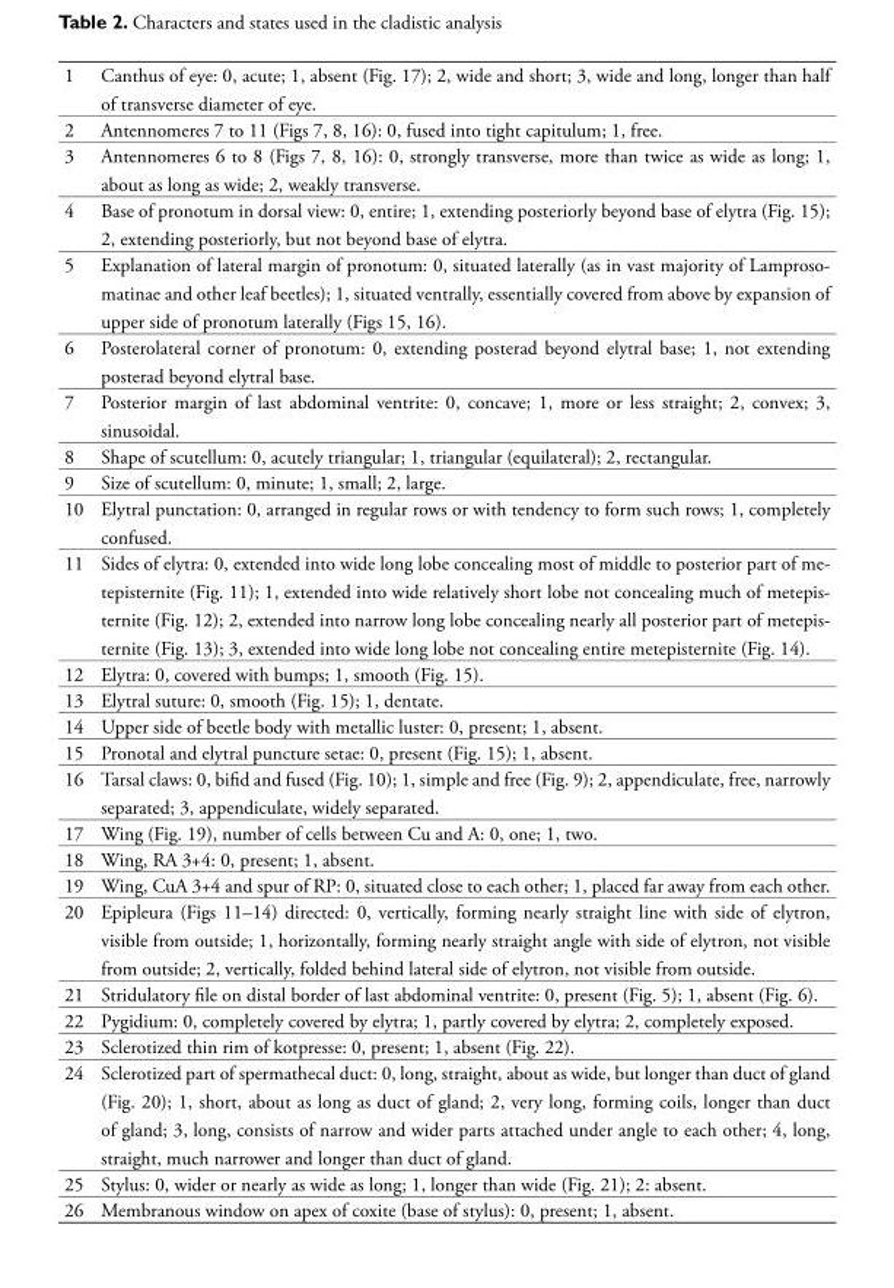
<table><tbody><tr><td>1</td><td>Canthus of eye: 0, acute; 1, absent (Fig. 17); 2, wide and short; 3, wide and long, longer than half of transverse diameter of eye.</td></tr><tr><td>2</td><td>Antennomeres 7 to 11 (Figs 7, 8, 16): 0, fused into tight capitulum; 1, free.</td></tr><tr><td>3</td><td>Antennomeres 6 to 8 (Figs 7, 8, 16): 0, strongly transverse, more than twice as wide as long; 1, about as long as wide; 2, weakly transverse.</td></tr><tr><td>4</td><td>Base of pronotum in dorsal view: 0, entire; 1, extending posteriorly beyond base of elytra (Fig. 15); 2, extending posteriorly, but not beyond base of elytra.</td></tr><tr><td>5</td><td>Explanation of lateral margin of pronotum: 0, situated laterally (as in vast majority of Lamproso- matinae and other leaf beetles); 1, situated ventrally, essentially covered from above by expansion of upper side of pronotum laterally (Figs 15, 16).</td></tr><tr><td>6</td><td>Posterolateral corner of pronotum: 0, extending posterad beyond elytral base; 1, not extending posterad beyond elytral base.</td></tr><tr><td>7</td><td>Posterior margin of last abdominal ventrite: 0, concave; 1, more or less straight; 2, convex; 3, sinusoidal.</td></tr><tr><td>8</td><td>Shape of scutellum: 0, acutely triangular; 1, triangular (equilateral); 2, rectangular.</td></tr><tr><td>9</td><td>Size of scutellum: 0, minute; 1, small; 2, large.</td></tr><tr><td>10</td><td>Elytral punctation: 0, arranged in regular rows or with tendency to form such rows; 1, completely confused.</td></tr><tr><td>11</td><td>Sides of elytra: 0, extended into wide long lobe concealing most of middle to posterior part of me- tepisternite (Fig. 11); 1, extended into wide relatively short lobe not concealing much of metepis- ternite (Fig. 12); 2, extended into narrow long lobe concealing nearly all posterior part of metepis- ternite (Fig. 13); 3, extended into wide long lobe not concealing entire metepisternite (Fig. 14).</td></tr><tr><td>12</td><td>Elytra: 0, covered with bumps; 1, smooth (Fig. 15).</td></tr><tr><td>13</td><td>Elytral suture: 0, smooth (Fig. 15); 1, dentate.</td></tr><tr><td>14</td><td>Upper side of beetle body with metallic luster: 0, present; 1, absent.</td></tr><tr><td>15</td><td>Pronotal and elytral puncture setae: 0, present (Fig. 15); 1, absent.</td></tr><tr><td>16</td><td>Tarsal claws: 0, bifi d and fused (Fig. 10); 1, simple and free (Fig. 9); 2, appendiculate, free, narrowly separated; 3, appendiculate, widely separated.</td></tr><tr><td>17</td><td>Wing (Fig. 19), number of cells between Cu and A: 0, one; 1, two.</td></tr><tr><td>18</td><td>Wing, RA 3+4: 0, present; 1, absent.</td></tr><tr><td>19</td><td>Wing, CuA 3+4 and spur of RP: 0, situated close to each other; 1, placed far away from each other.</td></tr><tr><td>20</td><td>Epipleura (Figs 11–14) directed: 0, vertically, forming nearly straight line with side of elytron, visible from outside; 1, horizontally, forming nearly straight angle with side of elytron, not visible from outside; 2, vertically, folded behind lateral side of elytron, not visible from outside.</td></tr><tr><td>21</td><td>Stridulatory fi le on distal border of last abdominal ventrite: 0, present (Fig. 5); 1, absent (Fig. 6).</td></tr><tr><td>22</td><td>Pygidium: 0, completely covered by elytra; 1, partly covered by elytra; 2, completely exposed.</td></tr><tr><td>23</td><td>Sclerotized thin rim of kotpresse: 0, present; 1, absent (Fig. 22).</td></tr><tr><td>24</td><td>Sclerotized part of spermathecal duct: 0, long, straight, about as wide, but longer than duct of gland (Fig. 20); 1, short, about as long as duct of gland; 2, very long, forming coils, longer than duct of gland; 3, long, consists of narrow and wider parts attached under angle to each other; 4, long, straight, much narrower and longer than duct of gland.</td></tr><tr><td>25</td><td>Stylus: 0, wider or nearly as wide as long; 1, longer than wide (Fig. 21); 2: absent.</td></tr><tr><td>26</td><td>Membranous window on apex of coxite (base of stylus): 0, present; 1, absent.</td></tr></tbody></table>